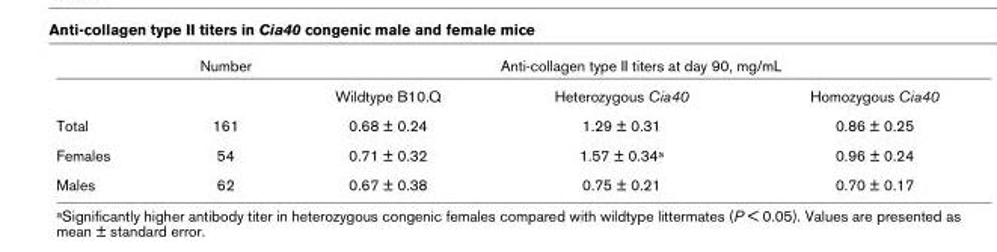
<table><thead><tr><td rowspan="2"></td><td rowspan="2">Number</td><td colspan="3">Anti-collagen type II titers at day 90, mg/mL</td></tr><tr><td>Wildtype B10.Q</td><td>Heterozygous Cia40</td><td>Homozygous Cia40</td></tr></thead><tbody><tr><td>Total</td><td>161</td><td>0.68 ± 0.24</td><td>1.29 ± 0.31</td><td>0.86 ± 0.25</td></tr><tr><td>Females</td><td>54</td><td>0.71 ± 0.32</td><td>1.57 ± 0.34<sup>a</sup></td><td>0.96 ± 0.24</td></tr><tr><td>Males</td><td>62</td><td>0.67 ± 0.38</td><td>0.75 ± 0.21</td><td>0.70 ± 0.17</td></tr></tbody></table>